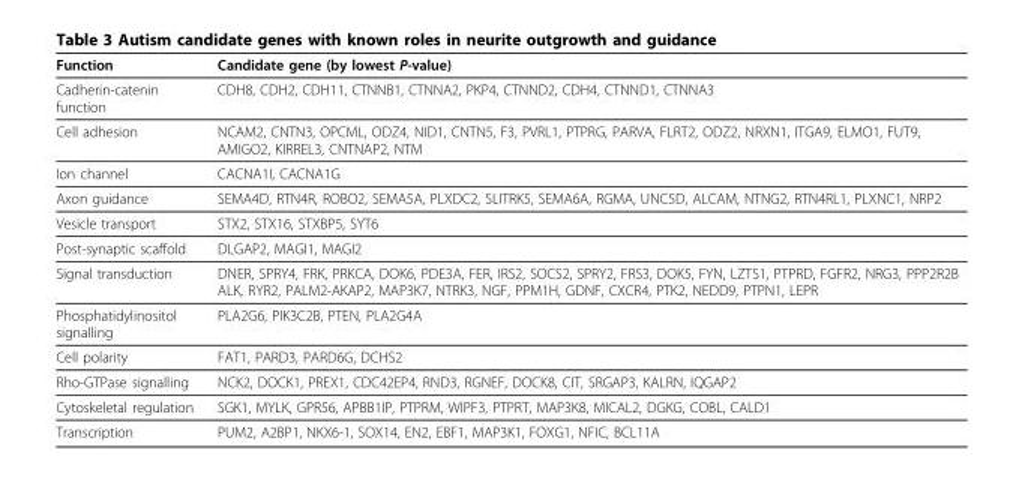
<table><thead><tr><td>Function</td><td>Candidate gene (by lowest P-value)</td></tr></thead><tbody><tr><td>Cadherin-catenin function</td><td>CDH8, CDH2, CDH11, CTNNB1, CTNNA2, PKP4, CTNND2, CDH4, CTNND1, CTNNA3</td></tr><tr><td>Cell adhesion</td><td>NCAM2, CNTN3, OPCML, ODZ4, NID1, CNTN5, F3, PVRL1, PTPRG, PARVA, FLRT2, ODZ2, NRXN1, ITGA9, ELMO1, FUT9, AMIGO2, KIRREL3, CNTNAP2, NTM</td></tr><tr><td>Ion channel</td><td>CACNA1I, CACNA1G</td></tr><tr><td>Axon guidance</td><td>SEMA4D, RTN4R, ROBO2, SEMA5A, PLXDC2, SLITRK5, SEMA6A, RGMA, UNC5D, ALCAM, NTNG2, RTN4RL1, PLXNC1, NRP2</td></tr><tr><td>Vesicle transport</td><td>STX2, STX16, STXBP5, SYT6</td></tr><tr><td>Post-synaptic scaffold</td><td>DLGAP2, MAGI1, MAGI2</td></tr><tr><td>Signal transduction</td><td>DNER, SPRY4, FRK, PRKCA, DOK6, PDE3A, FER, IRS2, SOCS2, SPRY2, FRS3, DOK5, FYN, LZTS1, PTPRD, FGFR2, NRG3, PPP2R2B ALK, RYR2, PALM2-AKAP2, MAP3K7, NTRK3, NGF, PPM1H, GDNF, CXCR4, PTK2, NEDD9, PTPN1, LEPR</td></tr><tr><td>Phosphatidylinositol signalling</td><td>PLA2G6, PIK3C2B, PTEN, PLA2G4A</td></tr><tr><td>Cell polarity</td><td>FAT1, PARD3, PARD6G, DCHS2</td></tr><tr><td>Rho-GTPase signalling</td><td>NCK2, DOCK1, PREX1, CDC42EP4, RND3, RGNEF, DOCK8, CIT, SRGAP3, KALRN, IQGAP2</td></tr><tr><td>Cytoskeletal regulation</td><td>SGK1, MYLK, GPR56, APBB1IP, PTPRM, WIPF3, PTPRT, MAP3K8, MICAL2, DGKG, COBL, CALD1</td></tr><tr><td>Transcription</td><td>PUM2, A2BP1, NKX6-1, SOX14, EN2, EBF1, MAP3K1, FOXG1, NFIC, BCL11A</td></tr></tbody></table>